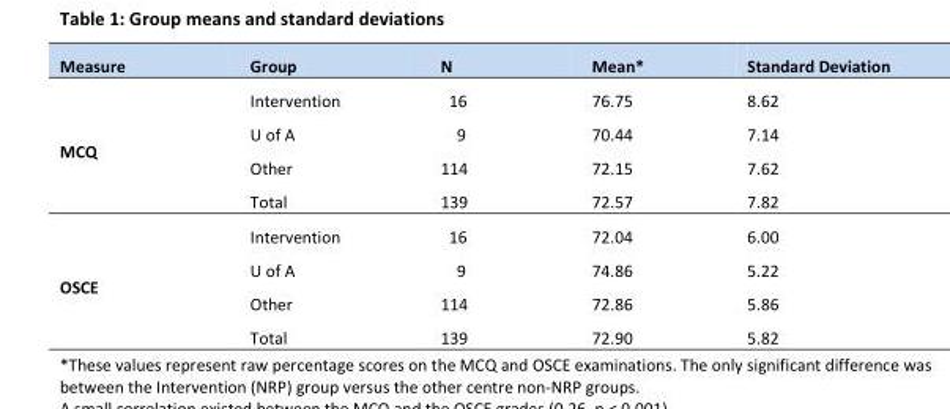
<table><thead><tr><td>Measure</td><td>Group</td><td>N</td><td>Mean*</td><td>Standard Deviation</td></tr></thead><tbody><tr><td rowspan="4">MCQ</td><td>Intervention</td><td>16</td><td>76.75</td><td>8.62</td></tr><tr><td>U of A</td><td>9</td><td>70.44</td><td>7.14</td></tr><tr><td>Other</td><td>114</td><td>72.15</td><td>7.62</td></tr><tr><td>Total</td><td>139</td><td>72.57</td><td>7.82</td></tr><tr><td rowspan="4">OSCE</td><td>Intervention</td><td>16</td><td>72.04</td><td>6.00</td></tr><tr><td>U of A</td><td>9</td><td>74.86</td><td>5.22</td></tr><tr><td>Other</td><td>114</td><td>72.86</td><td>5.86</td></tr><tr><td>Total</td><td>139</td><td>72.90</td><td>5.82</td></tr></tbody></table>